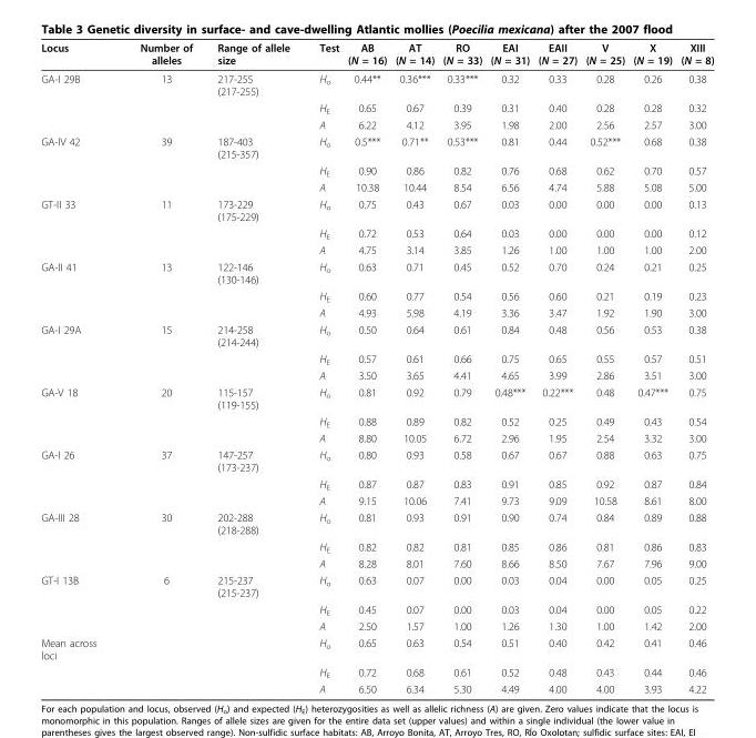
<table><thead><tr><td>Locus</td><td>Number of alleles</td><td>Range of allele size</td><td>Test</td><td>AB (N = 16)</td><td>AT (N = 14)</td><td>RO (N = 33)</td><td>EAI (N = 31)</td><td>EAII (N = 27)</td><td>V (N = 25)</td><td>X (N = 19)</td><td>XIII (N = 8)</td></tr></thead><tbody><tr><td rowspan="3">GA-I 29B</td><td>13</td><td>217-255 (217-255)</td><td>H<sub>o</sub></td><td>0.44**</td><td>0.36***</td><td>0.33***</td><td>0.32</td><td>0.33</td><td>0.28</td><td>0.26</td><td>0.38</td></tr><tr><td></td><td></td><td>H<sub>E</sub></td><td>0.65</td><td>0.67</td><td>0.39</td><td>0.31</td><td>0.40</td><td>0.28</td><td>0.28</td><td>0.32</td></tr><tr><td></td><td></td><td>A</td><td>6.22</td><td>4.12</td><td>3.95</td><td>1.98</td><td>2.00</td><td>2.56</td><td>2.57</td><td>3.00</td></tr><tr><td rowspan="3">GA-IV 42</td><td>39</td><td>187-403 (215-357)</td><td>H<sub>o</sub></td><td>0.5***</td><td>0.71**</td><td>0.53***</td><td>0.81</td><td>0.44</td><td>0.52***</td><td>0.68</td><td>0.38</td></tr><tr><td></td><td></td><td>H<sub>E</sub></td><td>0.90</td><td>0.86</td><td>0.82</td><td>0.76</td><td>0.68</td><td>0.62</td><td>0.70</td><td>0.57</td></tr><tr><td></td><td></td><td>A</td><td>10.38</td><td>10.44</td><td>8.54</td><td>6.56</td><td>4.74</td><td>5.88</td><td>5.08</td><td>5.00</td></tr><tr><td rowspan="3">GT-II 33</td><td>11</td><td>173-229 (175-229)</td><td>H<sub>o</sub></td><td>0.75</td><td>0.43</td><td>0.67</td><td>0.03</td><td>0.00</td><td>0.00</td><td>0.00</td><td>0.13</td></tr><tr><td></td><td></td><td>H<sub>E</sub></td><td>0.72</td><td>0.53</td><td>0.64</td><td>0.03</td><td>0.00</td><td>0.00</td><td>0.00</td><td>0.12</td></tr><tr><td></td><td></td><td>A</td><td>4.75</td><td>3.14</td><td>3.85</td><td>1.26</td><td>1.00</td><td>1.00</td><td>1.00</td><td>2.00</td></tr><tr><td rowspan="3">GA-II 41</td><td>13</td><td>122-146 (130-146)</td><td>H<sub>o</sub></td><td>0.63</td><td>0.71</td><td>0.45</td><td>0.52</td><td>0.70</td><td>0.24</td><td>0.21</td><td>0.25</td></tr><tr><td></td><td></td><td>H<sub>E</sub></td><td>0.60</td><td>0.77</td><td>0.54</td><td>0.56</td><td>0.60</td><td>0.21</td><td>0.19</td><td>0.23</td></tr><tr><td></td><td></td><td>A</td><td>4.93</td><td>5.98</td><td>4.19</td><td>3.36</td><td>3.47</td><td>1.92</td><td>1.90</td><td>3.00</td></tr><tr><td rowspan="3">GA-I 29A</td><td>15</td><td>214-258 (214-244)</td><td>H<sub>o</sub></td><td>0.50</td><td>0.64</td><td>0.61</td><td>0.84</td><td>0.48</td><td>0.56</td><td>0.53</td><td>0.38</td></tr><tr><td></td><td></td><td>H<sub>E</sub></td><td>0.57</td><td>0.61</td><td>0.66</td><td>0.75</td><td>0.65</td><td>0.55</td><td>0.57</td><td>0.51</td></tr><tr><td></td><td></td><td>A</td><td>3.50</td><td>3.65</td><td>4.41</td><td>4.65</td><td>3.99</td><td>2.86</td><td>3.51</td><td>3.00</td></tr><tr><td rowspan="3">GA-V 18</td><td>20</td><td>115-157 (119-155)</td><td>H<sub>o</sub></td><td>0.81</td><td>0.92</td><td>0.79</td><td>0.48***</td><td>0.22***</td><td>0.48</td><td>0.47***</td><td>0.75</td></tr><tr><td></td><td></td><td>H<sub>E</sub></td><td>0.88</td><td>0.89</td><td>0.82</td><td>0.52</td><td>0.25</td><td>0.49</td><td>0.43</td><td>0.54</td></tr><tr><td></td><td></td><td>A</td><td>8.80</td><td>10.05</td><td>6.72</td><td>2.96</td><td>1.95</td><td>2.54</td><td>3.32</td><td>3.00</td></tr><tr><td rowspan="3">GA-I 26</td><td>37</td><td>147-257 (173-237)</td><td>H<sub>o</sub></td><td>0.80</td><td>0.93</td><td>0.58</td><td>0.67</td><td>0.67</td><td>0.88</td><td>0.63</td><td>0.75</td></tr><tr><td></td><td></td><td>H<sub>E</sub></td><td>0.87</td><td>0.87</td><td>0.83</td><td>0.91</td><td>0.85</td><td>0.92</td><td>0.87</td><td>0.84</td></tr><tr><td></td><td></td><td>A</td><td>9.15</td><td>10.06</td><td>7.41</td><td>9.73</td><td>9.09</td><td>10.58</td><td>8.61</td><td>8.00</td></tr><tr><td rowspan="3">GA-III 28</td><td>30</td><td>202-288 (218-288)</td><td>H<sub>o</sub></td><td>0.81</td><td>0.93</td><td>0.91</td><td>0.90</td><td>0.74</td><td>0.84</td><td>0.89</td><td>0.88</td></tr><tr><td></td><td></td><td>H<sub>E</sub></td><td>0.82</td><td>0.82</td><td>0.81</td><td>0.85</td><td>0.86</td><td>0.81</td><td>0.86</td><td>0.83</td></tr><tr><td></td><td></td><td>A</td><td>8.28</td><td>8.01</td><td>7.60</td><td>8.66</td><td>8.50</td><td>7.67</td><td>7.96</td><td>9.00</td></tr><tr><td rowspan="3">GT-I 13B</td><td>6</td><td>215-237 (215-237)</td><td>H<sub>o</sub></td><td>0.63</td><td>0.07</td><td>0.00</td><td>0.03</td><td>0.04</td><td>0.00</td><td>0.05</td><td>0.25</td></tr><tr><td></td><td></td><td>H<sub>E</sub></td><td>0.45</td><td>0.07</td><td>0.00</td><td>0.03</td><td>0.04</td><td>0.00</td><td>0.05</td><td>0.22</td></tr><tr><td></td><td></td><td>A</td><td>2.50</td><td>1.57</td><td>1.00</td><td>1.26</td><td>1.30</td><td>1.00</td><td>1.42</td><td>2.00</td></tr><tr><td rowspan="3">Mean across loci</td><td></td><td></td><td>H<sub>o</sub></td><td>0.65</td><td>0.63</td><td>0.54</td><td>0.51</td><td>0.40</td><td>0.42</td><td>0.41</td><td>0.46</td></tr><tr><td></td><td></td><td>H<sub>E</sub></td><td>0.72</td><td>0.68</td><td>0.61</td><td>0.52</td><td>0.48</td><td>0.43</td><td>0.44</td><td>0.46</td></tr><tr><td></td><td></td><td>A</td><td>6.50</td><td>6.34</td><td>5.30</td><td>4.49</td><td>4.00</td><td>4.00</td><td>3.93</td><td>4.22</td></tr></tbody></table>